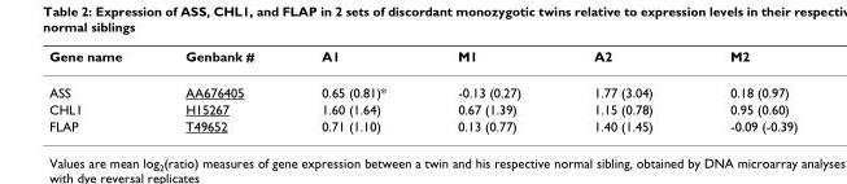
<table><thead><tr><td>Gene name</td><td>Genbank #</td><td>A1</td><td>M1</td><td>A2</td><td>M2</td></tr></thead><tbody><tr><td>ASS</td><td>AA676405</td><td>0.65 (0.81)*</td><td>-0.13 (0.27)</td><td>1.77 (3.04)</td><td>0.18 (0.97)</td></tr><tr><td>CHL1</td><td>H15267</td><td>1.60 (1.64)</td><td>0.67 (1.39)</td><td>1.15 (0.78)</td><td>0.95 (0.60)</td></tr><tr><td>FLAP</td><td>T49652</td><td>0.71 (1.10)</td><td>0.13 (0.77)</td><td>1.40 (1.45)</td><td>-0.09 (-0.39)</td></tr></tbody></table>